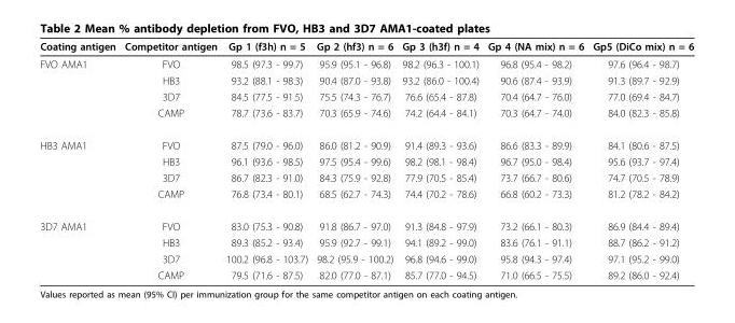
<table><thead><tr><td>Coating antigen</td><td>Competitor antigen</td><td>Gp 1 (f3h) n = 5</td><td>Gp 2 (hf3) n = 6</td><td>Gp 3 (h3f) n = 4</td><td>Gp 4 (NA mix) n = 6</td><td>Gp5 (DiCo mix) n = 6</td></tr></thead><tbody><tr><td rowspan="4">FVO AMA1</td><td>FVO</td><td>98.5 (97.3 - 99.7)</td><td>95.9 (95.1 - 96.8)</td><td>98.2 (96.3 - 100.1)</td><td>96.8 (95.4 - 98.2)</td><td>97.6 (96.4 - 98.7)</td></tr><tr><td>HB3</td><td>93.2 (88.1 - 98.3)</td><td>90.4 (87.0 - 93.8)</td><td>93.2 (86.0 - 100.4)</td><td>90.6 (87.4 - 93.9)</td><td>91.3 (89.7 - 92.9)</td></tr><tr><td>3D7</td><td>84.5 (77.5 - 91.5)</td><td>75.5 (74.3 - 76.7)</td><td>76.6 (65.4 - 87.8)</td><td>70.4 (64.7 - 76.0)</td><td>77.0 (69.4 - 84.7)</td></tr><tr><td>CAMP</td><td>78.7 (73.6 - 83.7)</td><td>70.3 (65.9 - 74.6)</td><td>74.2 (64.4 - 84.1)</td><td>70.3 (64.7 - 74.0)</td><td>84.0 (82.3 - 85.8)</td></tr><tr><td rowspan="4">HB3 AMA1</td><td>FVO</td><td>87.5 (79.0 - 96.0)</td><td>86.0 (81.2 - 90.9)</td><td>91.4 (89.3 - 93.6)</td><td>86.6 (83.3 - 89.9)</td><td>84.1 (80.6 - 87.5)</td></tr><tr><td>HB3</td><td>96.1 (93.6 - 98.5)</td><td>97.5 (95.4 - 99.6)</td><td>98.2 (98.1 - 98.4)</td><td>96.7 (95.0 - 98.4)</td><td>95.6 (93.7 - 97.4)</td></tr><tr><td>3D7</td><td>86.7 (82.3 - 91.0)</td><td>84.3 (75.9 - 92.8)</td><td>77.9 (70.5 - 85.4)</td><td>73.7 (66.7 - 80.6)</td><td>74.7 (70.5 - 78.9)</td></tr><tr><td>CAMP</td><td>76.8 (73.4 - 80.1)</td><td>68.5 (62.7 - 74.3)</td><td>74.4 (70.2 - 78.6)</td><td>66.8 (60.2 - 73.3)</td><td>81.2 (78.2 - 84.2)</td></tr><tr><td rowspan="4">3D7 AMA1</td><td>FVO</td><td>83.0 (75.3 - 90.8)</td><td>91.8 (86.7 - 97.0)</td><td>91.3 (84.8 - 97.9)</td><td>73.2 (66.1 - 80.3)</td><td>86.9 (84.4 - 89.4)</td></tr><tr><td>HB3</td><td>89.3 (85.2 - 93.4)</td><td>95.9 (92.7 - 99.1)</td><td>94.1 (89.2 - 99.0)</td><td>83.6 (76.1 - 91.1)</td><td>88.7 (86.2 - 91.2)</td></tr><tr><td>3D7</td><td>100.2 (96.8 - 103.7)</td><td>98.2 (95.9 - 100.2)</td><td>96.8 (94.6 - 99.0)</td><td>95.8 (94.3 - 97.4)</td><td>97.1 (95.2 - 99.0)</td></tr><tr><td>CAMP</td><td>79.5 (71.6 - 87.5)</td><td>82.0 (77.0 - 87.1)</td><td>85.7 (77.0 - 94.5)</td><td>71.0 (66.5 - 75.5)</td><td>89.2 (86.0 - 92.4)</td></tr></tbody></table>